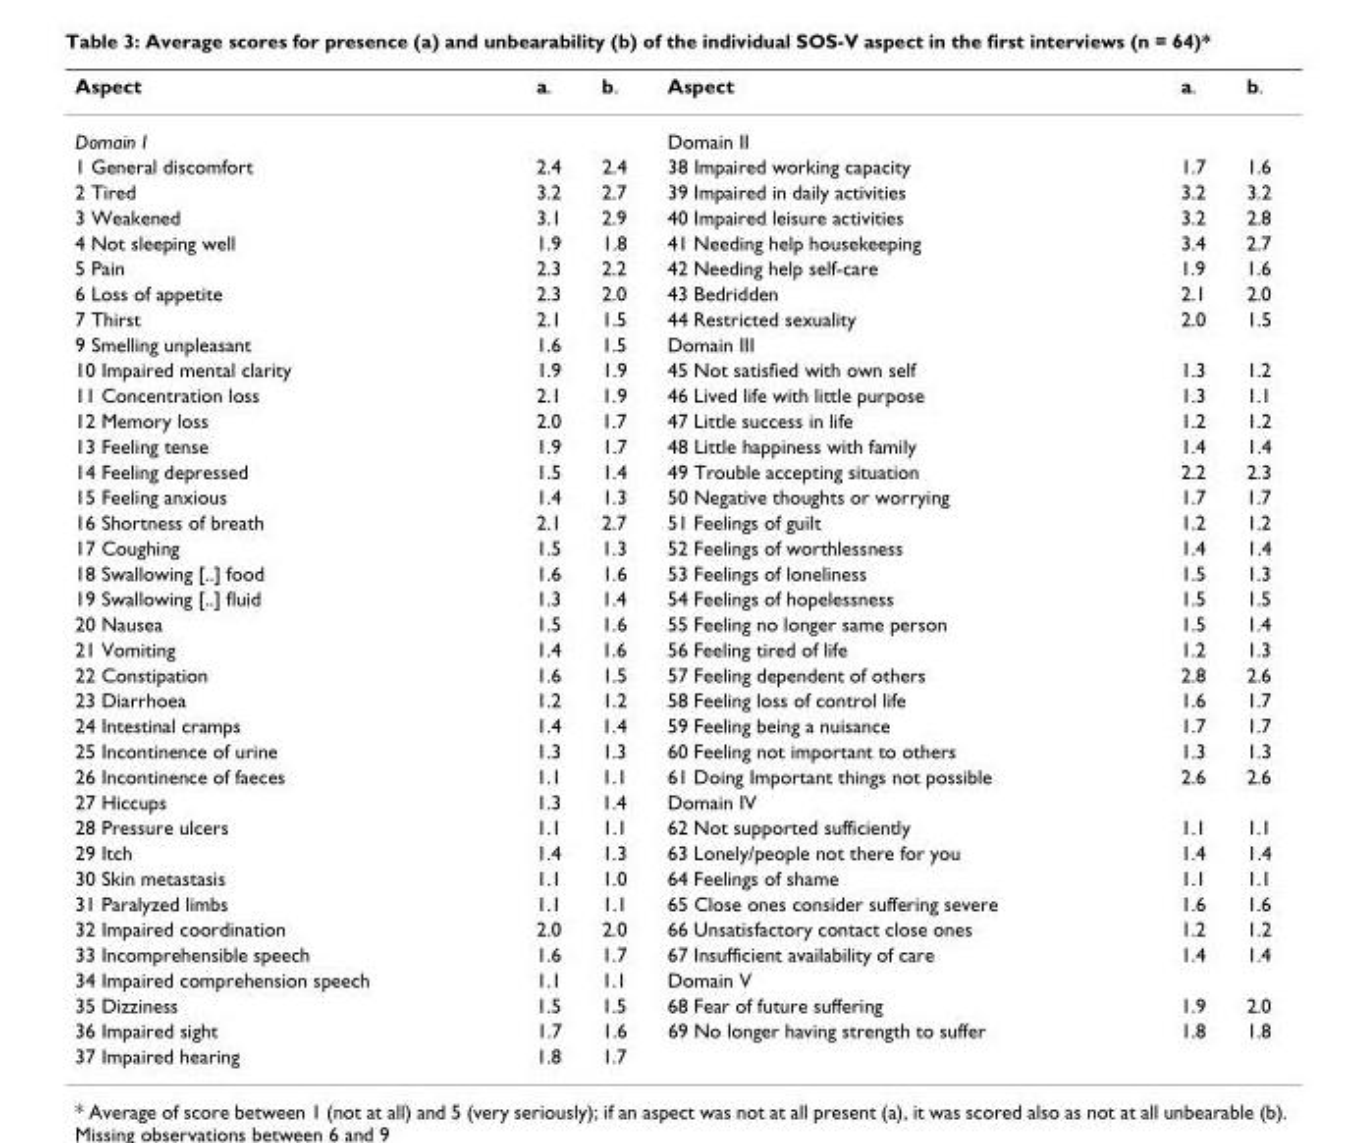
<table><thead><tr><td>Aspect</td><td>a.</td><td>b.</td><td>Aspect</td><td>a.</td><td>b.</td></tr></thead><tbody><tr><td>Domain I</td><td></td><td></td><td>Domain II</td><td></td><td></td></tr><tr><td>1 General discomfort</td><td>2.4</td><td>2.4</td><td>38 Impaired working capacity</td><td>1.7</td><td>1.6</td></tr><tr><td>2 Tired</td><td>3.2</td><td>2.7</td><td>39 Impaired in daily activities</td><td>3.2</td><td>3.2</td></tr><tr><td>3 Weakened</td><td>3.1</td><td>2.9</td><td>40 Impaired leisure activities</td><td>3.2</td><td>2.8</td></tr><tr><td>4 Not sleeping well</td><td>1.9</td><td>1.8</td><td>41 Needing help housekeeping</td><td>3.4</td><td>2.7</td></tr><tr><td>5 Pain</td><td>2.3</td><td>2.2</td><td>42 Needing help self-care</td><td>1.9</td><td>1.6</td></tr><tr><td>6 Loss of appetite</td><td>2.3</td><td>2.0</td><td>43 Bedridden</td><td>2.1</td><td>2.0</td></tr><tr><td>7 Thirst</td><td>2.1</td><td>1.5</td><td>44 Restricted sexuality</td><td>2.0</td><td>1.5</td></tr><tr><td>9 Smelling unpleasant</td><td>1.6</td><td>1.5</td><td>Domain III</td><td></td><td></td></tr><tr><td>10 Impaired mental clarity</td><td>1.9</td><td>1.9</td><td>45 Not satisfied with own self</td><td>1.3</td><td>1.2</td></tr><tr><td>11 Concentration loss</td><td>2.1</td><td>1.9</td><td>46 Lived life with little purpose</td><td>1.3</td><td>1.1</td></tr><tr><td>12 Memory loss</td><td>2.0</td><td>1.7</td><td>47 Little success in life</td><td>1.2</td><td>1.2</td></tr><tr><td>13 Feeling tense</td><td>1.9</td><td>1.7</td><td>48 Little happiness with family</td><td>1.4</td><td>1.4</td></tr><tr><td>14 Feeling depressed</td><td>1.5</td><td>1.4</td><td>49 Trouble accepting situation</td><td>2.2</td><td>2.3</td></tr><tr><td>15 Feeling anxious</td><td>1.4</td><td>1.3</td><td>50 Negative thoughts or worrying</td><td>1.7</td><td>1.7</td></tr><tr><td>16 Shortness of breath</td><td>2.1</td><td>2.7</td><td>51 Feelings of guilt</td><td>1.2</td><td>1.2</td></tr><tr><td>17 Coughing</td><td>1.5</td><td>1.3</td><td>52 Feelings of worthlessness</td><td>1.4</td><td>1.4</td></tr><tr><td>18 Swallowing [..] food</td><td>1.6</td><td>1.6</td><td>53 Feelings of loneliness</td><td>1.5</td><td>1.3</td></tr><tr><td>19 Swallowing [..] fluid</td><td>1.3</td><td>1.4</td><td>54 Feelings of hopelessness</td><td>1.5</td><td>1.5</td></tr><tr><td>20 Nausea</td><td>1.5</td><td>1.6</td><td>55 Feeling no longer same person</td><td>1.5</td><td>1.4</td></tr><tr><td>21 Vomiting</td><td>1.4</td><td>1.6</td><td>56 Feeling tired of life</td><td>1.2</td><td>1.3</td></tr><tr><td>22 Constipation</td><td>1.6</td><td>1.5</td><td>57 Feeling dependent of others</td><td>2.8</td><td>2.6</td></tr><tr><td>23 Diarrhoea</td><td>1.2</td><td>1.2</td><td>58 Feeling loss of control life</td><td>1.6</td><td>1.7</td></tr><tr><td>24 Intestinal cramps</td><td>1.4</td><td>1.4</td><td>59 Feeling being a nuisance</td><td>1.7</td><td>1.7</td></tr><tr><td>25 Incontinence of urine</td><td>1.3</td><td>1.3</td><td>60 Feeling not important to others</td><td>1.3</td><td>1.3</td></tr><tr><td>26 Incontinence of faeces</td><td>1.1</td><td>1.1</td><td>61 Doing Important things not possible</td><td>2.6</td><td>2.6</td></tr><tr><td>27 Hiccups</td><td>1.3</td><td>1.4</td><td>Domain IV</td><td></td><td></td></tr><tr><td>28 Pressure ulcers</td><td>1.1</td><td>1.1</td><td>62 Not supported sufficiently</td><td>1.1</td><td>1.1</td></tr><tr><td>29 Itch</td><td>1.4</td><td>1.3</td><td>63 Lonely/people not there for you</td><td>1.4</td><td>1.4</td></tr><tr><td>30 Skin metastasis</td><td>1.1</td><td>1.0</td><td>64 Feelings of shame</td><td>1.1</td><td>1.1</td></tr><tr><td>31 Paralyzed limbs</td><td>1.1</td><td>1.1</td><td>65 Close ones consider suffering severe</td><td>1.6</td><td>1.6</td></tr><tr><td>32 Impaired coordination</td><td>2.0</td><td>2.0</td><td>66 Unsatisfactory contact close ones</td><td>1.2</td><td>1.2</td></tr><tr><td>33 Incomprehensible speech</td><td>1.6</td><td>1.7</td><td>67 Insufficient availability of care</td><td>1.4</td><td>1.4</td></tr><tr><td>34 Impaired comprehension speech</td><td>1.1</td><td>1.1</td><td>Domain V</td><td></td><td></td></tr><tr><td>35 Dizziness</td><td>1.5</td><td>1.5</td><td>68 Fear of future suffering</td><td>1.9</td><td>2.0</td></tr><tr><td>36 Impaired sight</td><td>1.7</td><td>1.6</td><td>69 No longer having strength to suffer</td><td>1.8</td><td>1.8</td></tr><tr><td>37 Impaired hearing</td><td>1.8</td><td>1.7</td><td></td><td></td><td></td></tr></tbody></table>